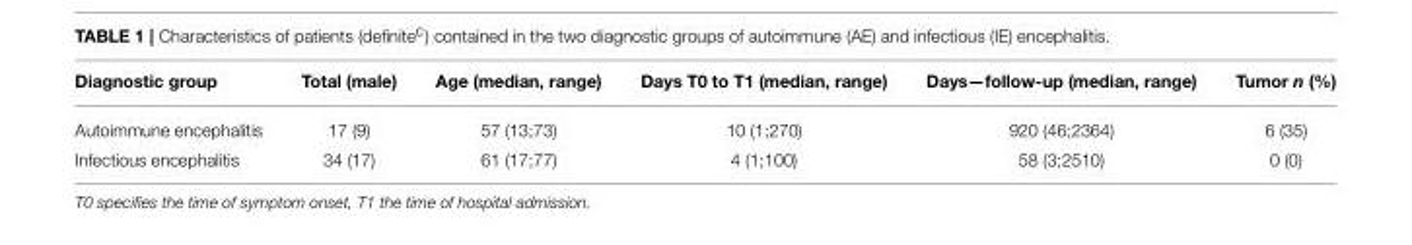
<table><thead><tr><td>Diagnostic group</td><td>Total (male)</td><td>Age (median, range)</td><td>Days T0 to T1 (median, range)</td><td>Days—follow-up (median, range)</td><td>Tumor n (%)</td></tr></thead><tbody><tr><td>Autoimmune encephalitis</td><td>17 (9)</td><td>57 (13;73)</td><td>10 (1;270)</td><td>920 (46;2364)</td><td>6 (35)</td></tr><tr><td>Infectious encephalitis</td><td>34 (17)</td><td>61 (17;77)</td><td>4 (1;100)</td><td>58 (3;2510)</td><td>0 (0)</td></tr></tbody></table>